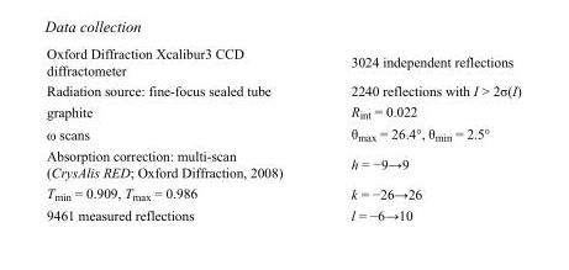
<table><tbody><tr><td>Oxford Diffraction Xcalibur3 CCD diffractometer</td><td>3024 independent reflections</td></tr><tr><td>Radiation source: fine-focus sealed tube</td><td>2240 reflections with I &gt; 2σ(I)</td></tr><tr><td>graphite</td><td>R<sub>int</sub> = 0.022</td></tr><tr><td>ω scans</td><td>θ<sub>max</sub> = 26.4°, θ<sub>min</sub> = 2.5°</td></tr><tr><td>Absorption correction: multi-scan (CrysAlis RED; Oxford Diffraction, 2008)</td><td>h = −9→9</td></tr><tr><td>T<sub>min</sub> = 0.909, T<sub>max</sub> = 0.986</td><td>k = −26→26</td></tr><tr><td>9461 measured reflections</td><td>l = −6→10</td></tr></tbody></table>